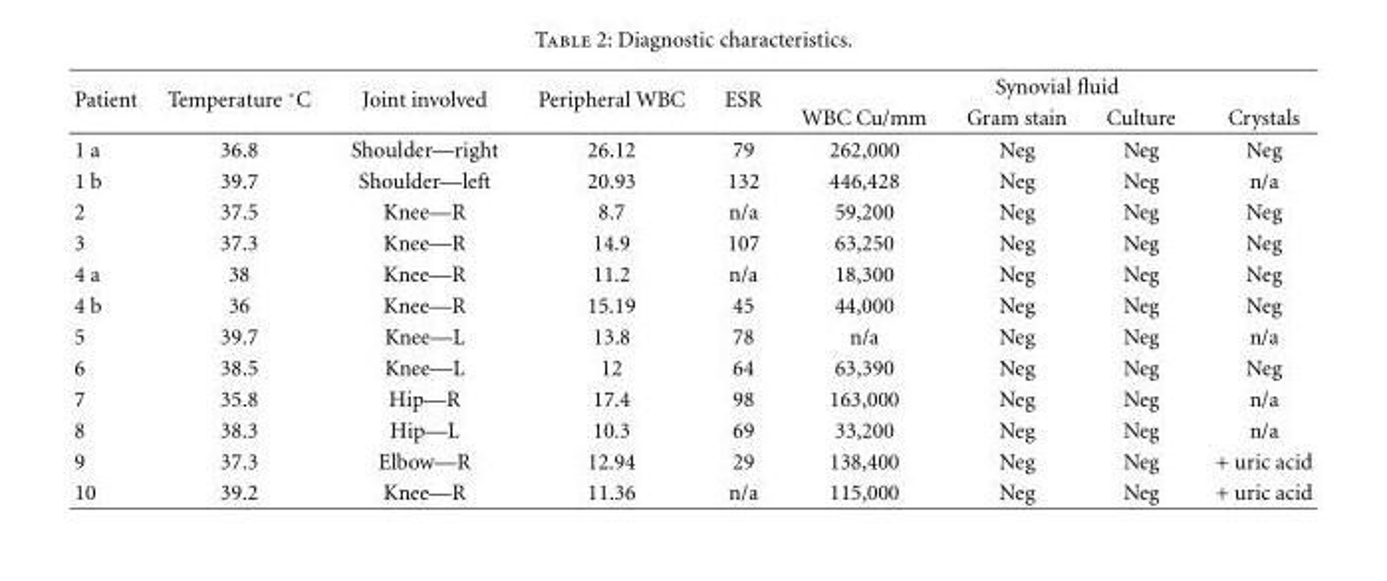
<table><thead><tr><td rowspan="2">Patient</td><td rowspan="2">Temperature ◦C</td><td rowspan="2">Joint involved</td><td rowspan="2">Peripheral WBC</td><td rowspan="2">ESR</td><td colspan="4">Synovial fluid</td></tr><tr><td>WBC Cu/mm</td><td>Gram stain</td><td>Culture</td><td>Crystals</td></tr></thead><tbody><tr><td>1 a</td><td>36.8</td><td>Shoulder—right</td><td>26.12</td><td>79</td><td>262,000</td><td>Neg</td><td>Neg</td><td>Neg</td></tr><tr><td>1 b</td><td>39.7</td><td>Shoulder—left</td><td>20.93</td><td>132</td><td>446,428</td><td>Neg</td><td>Neg</td><td>n/a</td></tr><tr><td>2</td><td>37.5</td><td>Knee—R</td><td>8.7</td><td>n/a</td><td>59,200</td><td>Neg</td><td>Neg</td><td>Neg</td></tr><tr><td>3</td><td>37.3</td><td>Knee—R</td><td>14.9</td><td>107</td><td>63,250</td><td>Neg</td><td>Neg</td><td>Neg</td></tr><tr><td>4 a</td><td>38</td><td>Knee—R</td><td>11.2</td><td>n/a</td><td>18,300</td><td>Neg</td><td>Neg</td><td>Neg</td></tr><tr><td>4 b</td><td>36</td><td>Knee—R</td><td>15.19</td><td>45</td><td>44,000</td><td>Neg</td><td>Neg</td><td>Neg</td></tr><tr><td>5</td><td>39.7</td><td>Knee—L</td><td>13.8</td><td>78</td><td>n/a</td><td>Neg</td><td>Neg</td><td>n/a</td></tr><tr><td>6</td><td>38.5</td><td>Knee—L</td><td>12</td><td>64</td><td>63,390</td><td>Neg</td><td>Neg</td><td>Neg</td></tr><tr><td>7</td><td>35.8</td><td>Hip—R</td><td>17.4</td><td>98</td><td>163,000</td><td>Neg</td><td>Neg</td><td>n/a</td></tr><tr><td>8</td><td>38.3</td><td>Hip—L</td><td>10.3</td><td>69</td><td>33,200</td><td>Neg</td><td>Neg</td><td>n/a</td></tr><tr><td>9</td><td>37.3</td><td>Elbow—R</td><td>12.94</td><td>29</td><td>138,400</td><td>Neg</td><td>Neg</td><td>+ uric acid</td></tr><tr><td>10</td><td>39.2</td><td>Knee—R</td><td>11.36</td><td>n/a</td><td>115,000</td><td>Neg</td><td>Neg</td><td>+ uric acid</td></tr></tbody></table>